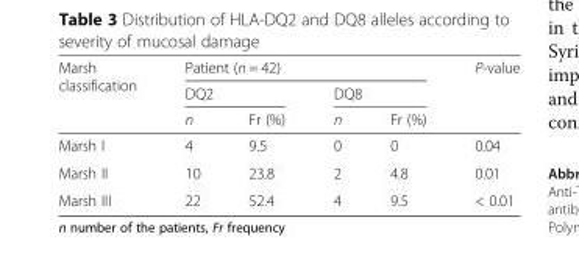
<table><thead><tr><td rowspan="3">Marsh classification</td><td colspan="4">Patient (n = 42)</td><td rowspan="3">P-value</td></tr><tr><td colspan="2">DQ2</td><td colspan="2">DQ8</td></tr><tr><td>n</td><td>Fr (%)</td><td>n</td><td>Fr (%)</td></tr></thead><tbody><tr><td>Marsh I</td><td>4</td><td>9.5</td><td>0</td><td>0</td><td>0.04</td></tr><tr><td>Marsh II</td><td>10</td><td>23.8</td><td>2</td><td>4.8</td><td>0.01</td></tr><tr><td>Marsh III</td><td>22</td><td>52.4</td><td>4</td><td>9.5</td><td>&lt; 0.01</td></tr></tbody></table>